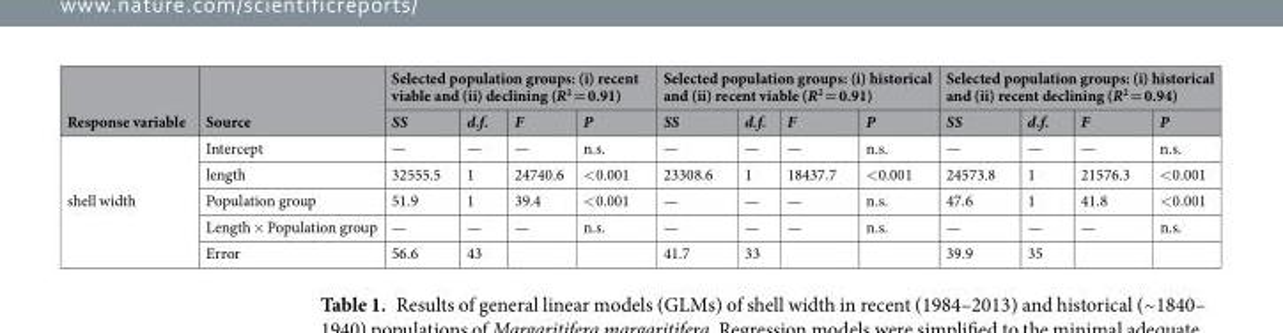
<table><thead><tr><td rowspan="2">Response variable</td><td rowspan="2">Source</td><td colspan="4">Selected population groups: (i) recent viable and (ii) declining (R<sup>2</sup> = 0.91)</td><td colspan="4">Selected population groups: (i) historical and (ii) recent viable (R<sup>2</sup> = 0.91)</td><td colspan="4">Selected population groups: (i) historical and (ii) recent declining (R<sup>2</sup> = 0.94)</td></tr><tr><td>SS</td><td>d.f.</td><td>F</td><td>P</td><td>SS</td><td>d.f.</td><td>F</td><td>P</td><td>SS</td><td>d.f.</td><td>F</td><td>P</td></tr></thead><tbody><tr><td rowspan="5">shell width</td><td>Intercept</td><td>—</td><td>—</td><td>—</td><td>n.s.</td><td>—</td><td>—</td><td>—</td><td>n.s.</td><td>—</td><td>—</td><td>—</td><td>n.s.</td></tr><tr><td>length</td><td>32555.5</td><td>1</td><td>24740.6</td><td>&lt;0.001</td><td>23308.6</td><td>1</td><td>18437.7</td><td>&lt;0.001</td><td>24573.8</td><td>1</td><td>21576.3</td><td>&lt;0.001</td></tr><tr><td>Population group</td><td>51.9</td><td>1</td><td>39.4</td><td>&lt;0.001</td><td>—</td><td>—</td><td>—</td><td>n.s.</td><td>47.6</td><td>1</td><td>41.8</td><td>&lt;0.001</td></tr><tr><td>Length × Population group</td><td>—</td><td>—</td><td>—</td><td>n.s.</td><td>—</td><td>—</td><td>—</td><td>n.s.</td><td>—</td><td>—</td><td>—</td><td>n.s.</td></tr><tr><td>Error</td><td>56.6</td><td>43</td><td></td><td></td><td>41.7</td><td>33</td><td></td><td></td><td>39.9</td><td>35</td><td></td><td></td></tr></tbody></table>